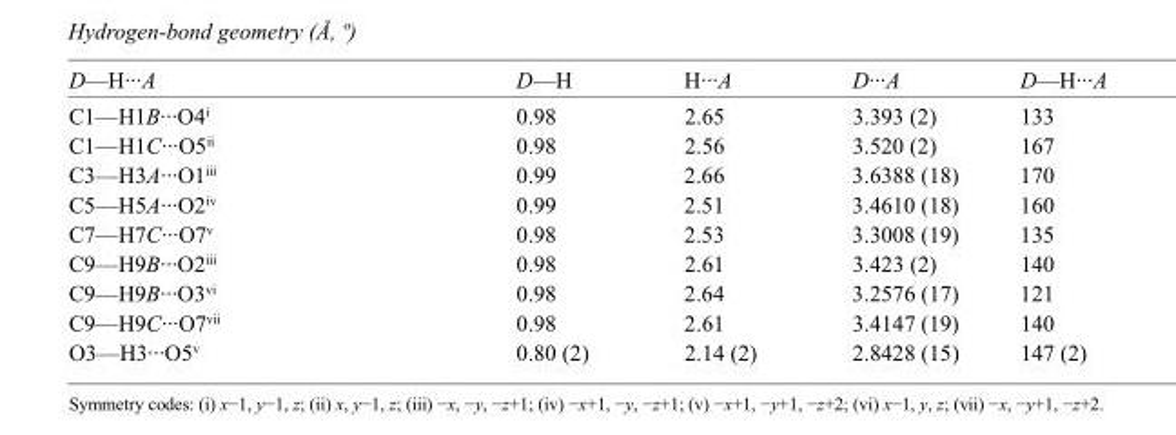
<table><tbody><tr><td>D—H···A</td><td>D—H</td><td>H···A</td><td>D···A</td><td>D—H···A</td></tr><tr><td>C1—H1B···O4<sup>i</sup></td><td>0.98</td><td>2.65</td><td>3.393 (2)</td><td>133</td></tr><tr><td>C1—H1C···O5<sup>ii</sup></td><td>0.98</td><td>2.56</td><td>3.520 (2)</td><td>167</td></tr><tr><td>C3—H3A···O1<sup>iii</sup></td><td>0.99</td><td>2.66</td><td>3.6388 (18)</td><td>170</td></tr><tr><td>C5—H5A···O2<sup>iv</sup></td><td>0.99</td><td>2.51</td><td>3.4610 (18)</td><td>160</td></tr><tr><td>C7—H7C···O7<sup>v</sup></td><td>0.98</td><td>2.53</td><td>3.3008 (19)</td><td>135</td></tr><tr><td>C9—H9B···O2<sup>iii</sup></td><td>0.98</td><td>2.61</td><td>3.423 (2)</td><td>140</td></tr><tr><td>C9—H9B···O3<sup>vi</sup></td><td>0.98</td><td>2.64</td><td>3.2576 (17)</td><td>121</td></tr><tr><td>C9—H9C···O7<sup>vii</sup></td><td>0.98</td><td>2.61</td><td>3.4147 (19)</td><td>140</td></tr><tr><td>O3—H3···O5<sup>v</sup></td><td>0.80 (2)</td><td>2.14 (2)</td><td>2.8428 (15)</td><td>147 (2)</td></tr></tbody></table>